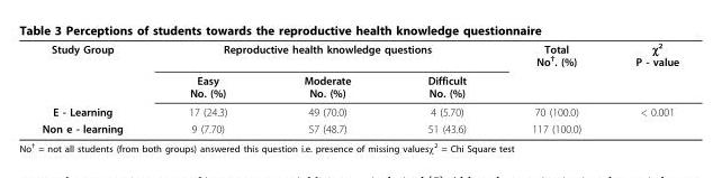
<table><tbody><tr><td rowspan="2">Study Group</td><td colspan="3">Reproductive health knowledge questions</td><td>Total No<sup>†</sup>. (%)</td><td>χ<sup>2</sup> P - value</td></tr><tr><td>Easy No. (%)</td><td>Moderate No. (%)</td><td>Difficult No. (%)</td><td></td><td></td></tr><tr><td>E - Learning</td><td>17 (24.3)</td><td>49 (70.0)</td><td>4 (5.70)</td><td>70 (100.0)</td><td>&lt; 0.001</td></tr><tr><td>Non e - learning</td><td>9 (7.70)</td><td>57 (48.7)</td><td>51 (43.6)</td><td>117 (100.0)</td><td></td></tr></tbody></table>